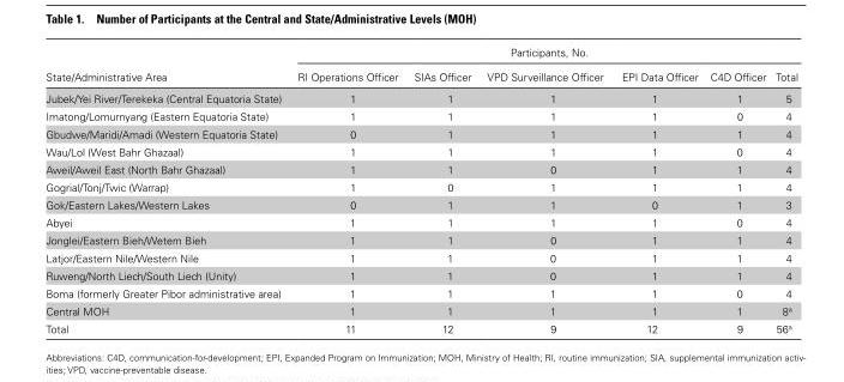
<table><thead><tr><td rowspan="2">State/Administrative Area</td><td colspan="6">Participants, No.</td></tr><tr><td>RI Operations Officer</td><td>SIAs Officer</td><td>VPD Surveillance Officer</td><td>EPI Data Officer</td><td>C4D Officer</td><td>Total</td></tr></thead><tbody><tr><td>Jubek/Yei River/Terekeka (Central Equatoria State)</td><td>1</td><td>1</td><td>1</td><td>1</td><td>1</td><td>5</td></tr><tr><td>Imatong/Lomurnyang (Eastern Equatoria State)</td><td>1</td><td>1</td><td>1</td><td>1</td><td>0</td><td>4</td></tr><tr><td>Gbudwe/Maridi/Amadi (Western Equatoria State)</td><td>0</td><td>1</td><td>1</td><td>1</td><td>1</td><td>4</td></tr><tr><td>Wau/Lol (West Bahr Ghazaal)</td><td>1</td><td>1</td><td>1</td><td>1</td><td>0</td><td>4</td></tr><tr><td>Aweil/Aweil East (North Bahr Ghazaal)</td><td>1</td><td>1</td><td>0</td><td>1</td><td>1</td><td>4</td></tr><tr><td>Gogrial/Tonj/Twic (Warrap)</td><td>1</td><td>0</td><td>1</td><td>1</td><td>1</td><td>4</td></tr><tr><td>Gok/Eastern Lakes/Western Lakes</td><td>0</td><td>1</td><td>1</td><td>0</td><td>1</td><td>3</td></tr><tr><td>Abyei</td><td>1</td><td>1</td><td>1</td><td>1</td><td>0</td><td>4</td></tr><tr><td>Jonglei/Eastern Bieh/Wetern Bieh</td><td>1</td><td>1</td><td>0</td><td>1</td><td>1</td><td>4</td></tr><tr><td>Latjor/Eastern Nile/Western Nile</td><td>1</td><td>1</td><td>0</td><td>1</td><td>1</td><td>4</td></tr><tr><td>Ruweng/North Liech/South Liech (Unity)</td><td>1</td><td>1</td><td>0</td><td>1</td><td>1</td><td>4</td></tr><tr><td>Boma (formerly Greater Pibor administrative area)</td><td>1</td><td>1</td><td>1</td><td>1</td><td>0</td><td>4</td></tr><tr><td>Central MOH</td><td>1</td><td>1</td><td>1</td><td>1</td><td>1</td><td>8<sup>a</sup></td></tr><tr><td>Total</td><td>11</td><td>12</td><td>9</td><td>12</td><td>9</td><td>56<sup>a</sup></td></tr></tbody></table>